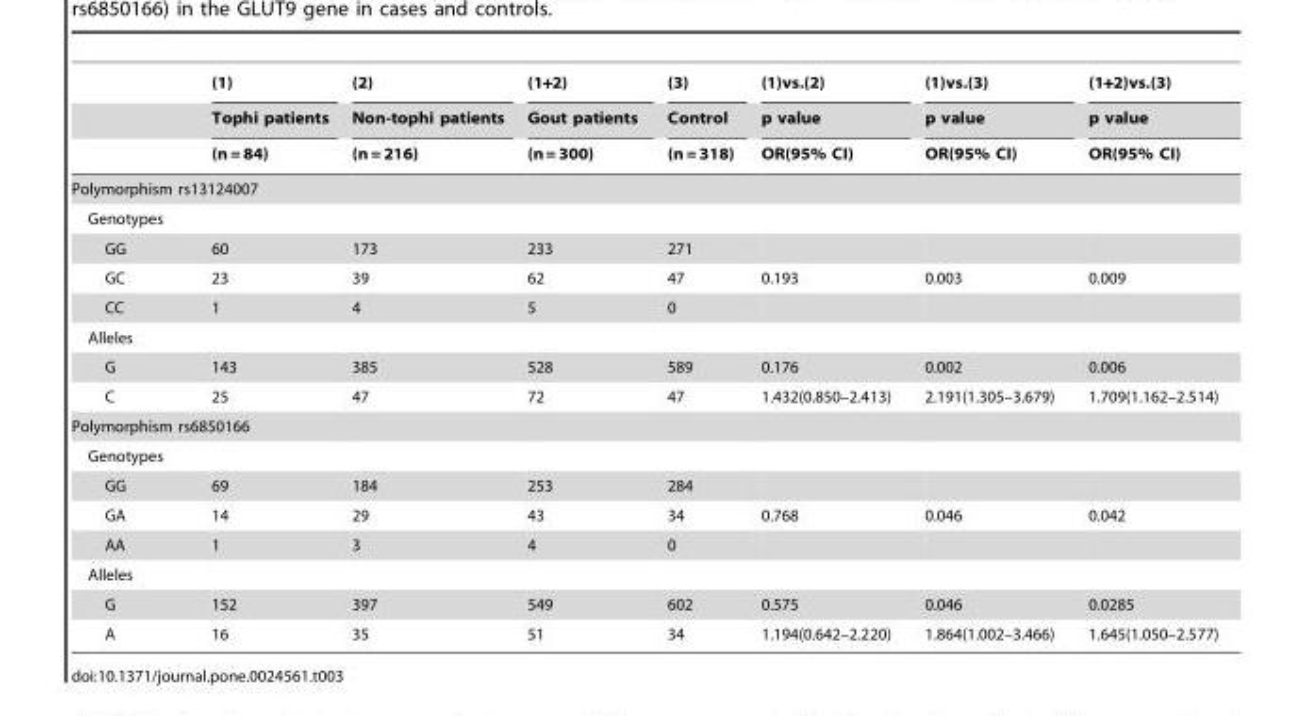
<table><thead><tr><td rowspan="3"></td><td rowspan="3">(1) Tophi patients (n = 84)</td><td rowspan="3">(2) Non-tophi patients (n = 216)</td><td rowspan="3">(1+2) Gout patients (n = 300)</td><td rowspan="3">(3) Control (n = 318)</td><td rowspan="3">(1)vs.(2) p value OR(95% CI)</td><td rowspan="3">(1)vs.(3) p value OR(95% CI)</td><td rowspan="3">(1+2)vs.(3) p value OR(95% CI)</td></tr><tr></tr><tr></tr></thead><tbody><tr><td colspan="8">Polymorphism rs13124007</td></tr><tr><td colspan="8">Genotypes</td></tr><tr><td>GG</td><td>60</td><td>173</td><td>233</td><td>271</td><td></td><td></td><td></td></tr><tr><td>GC</td><td>23</td><td>39</td><td>62</td><td>47</td><td>0.193</td><td>0.003</td><td>0.009</td></tr><tr><td>CC</td><td>1</td><td>4</td><td>5</td><td>0</td><td></td><td></td><td></td></tr><tr><td colspan="8">Alleles</td></tr><tr><td>G</td><td>143</td><td>385</td><td>528</td><td>589</td><td>0.176</td><td>0.002</td><td>0.006</td></tr><tr><td>C</td><td>25</td><td>47</td><td>72</td><td>47</td><td>1.432(0.850–2.413)</td><td>2.191(1.305–3.679)</td><td>1.709(1.162–2.514)</td></tr><tr><td colspan="8">Polymorphism rs6850166</td></tr><tr><td colspan="8">Genotypes</td></tr><tr><td>GG</td><td>69</td><td>184</td><td>253</td><td>284</td><td></td><td></td><td></td></tr><tr><td>GA</td><td>14</td><td>29</td><td>43</td><td>34</td><td>0.768</td><td>0.046</td><td>0.042</td></tr><tr><td>AA</td><td>1</td><td>3</td><td>4</td><td>0</td><td></td><td></td><td></td></tr><tr><td colspan="8">Alleles</td></tr><tr><td>G</td><td>152</td><td>397</td><td>549</td><td>602</td><td>0.575</td><td>0.046</td><td>0.0285</td></tr><tr><td>A</td><td>16</td><td>35</td><td>51</td><td>34</td><td>1.194(0.642–2.220)</td><td>1.864(1.002–3.466)</td><td>1.645(1.050–2.577)</td></tr></tbody></table>